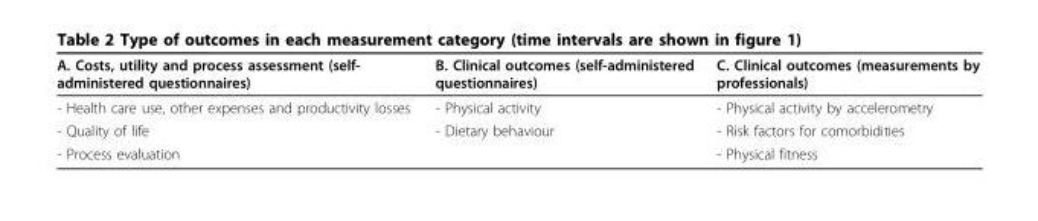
<table><thead><tr><td>A. Costs, utility and process assessment (self- administered questionnaires)</td><td>B. Clinical outcomes (self-administered questionnaires)</td><td>C. Clinical outcomes (measurements by professionals)</td></tr></thead><tbody><tr><td>- Health care use, other expenses and productivity losses</td><td>- Physical activity</td><td>- Physical activity by accelerometry</td></tr><tr><td>- Quality of life</td><td>- Dietary behaviour</td><td>- Risk factors for comorbidities</td></tr><tr><td>- Process evaluation</td><td></td><td>- Physical fitness</td></tr></tbody></table>